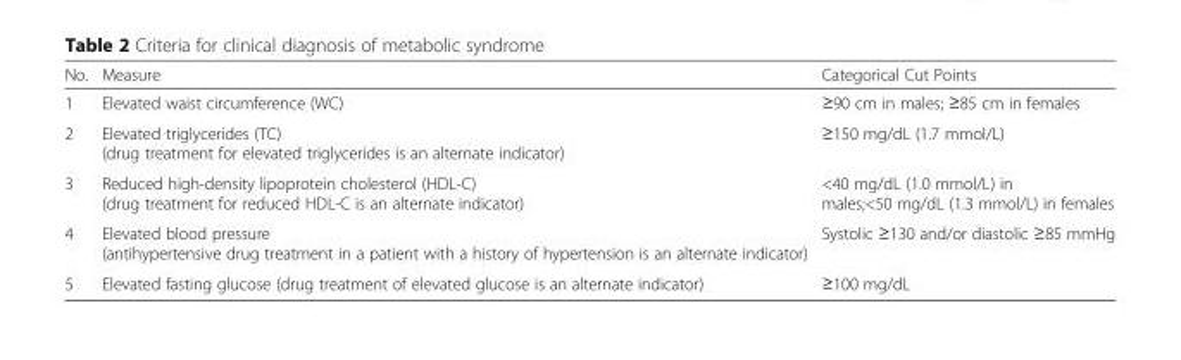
<table><thead><tr><td>No.</td><td>Measure</td><td>Categorical Cut Points</td></tr></thead><tbody><tr><td>1</td><td>Elevated waist circumference (WC)</td><td>≥90 cm in males; ≥85 cm in females</td></tr><tr><td>2</td><td>Elevated triglycerides (TC) (drug treatment for elevated triglycerides is an alternate indicator)</td><td>≥150 mg/dL (1.7 mmol/L)</td></tr><tr><td>3</td><td>Reduced high-density lipoprotein cholesterol (HDL-C) (drug treatment for reduced HDL-C is an alternate indicator)</td><td>&lt;40 mg/dL (1.0 mmol/L) in males;&lt;50 mg/dL (1.3 mmol/L) in females</td></tr><tr><td>4</td><td>Elevated blood pressure (antihypertensive drug treatment in a patient with a history of hypertension is an alternate indicator)</td><td>Systolic ≥130 and/or diastolic ≥85 mmHg</td></tr><tr><td>5</td><td>Elevated fasting glucose (drug treatment of elevated glucose is an alternate indicator)</td><td>≥100 mg/dL</td></tr></tbody></table>